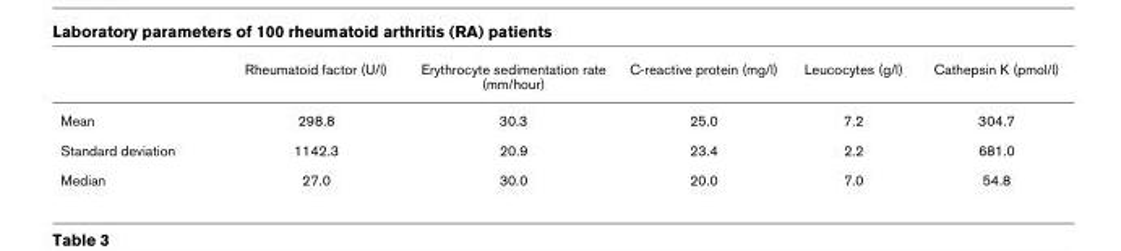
<table><thead><tr><td></td><td>Rheumatoid factor (U/l)</td><td>Erythrocyte sedimentation rate (mm/hour)</td><td>C-reactive protein (mg/l)</td><td>Leucocytes (g/l)</td><td>Cathepsin K (pmol/l)</td></tr></thead><tbody><tr><td>Mean</td><td>298.8</td><td>30.3</td><td>25.0</td><td>7.2</td><td>304.7</td></tr><tr><td>Standard deviation</td><td>1142.3</td><td>20.9</td><td>23.4</td><td>2.2</td><td>681.0</td></tr><tr><td>Median</td><td>27.0</td><td>30.0</td><td>20.0</td><td>7.0</td><td>54.8</td></tr></tbody></table>